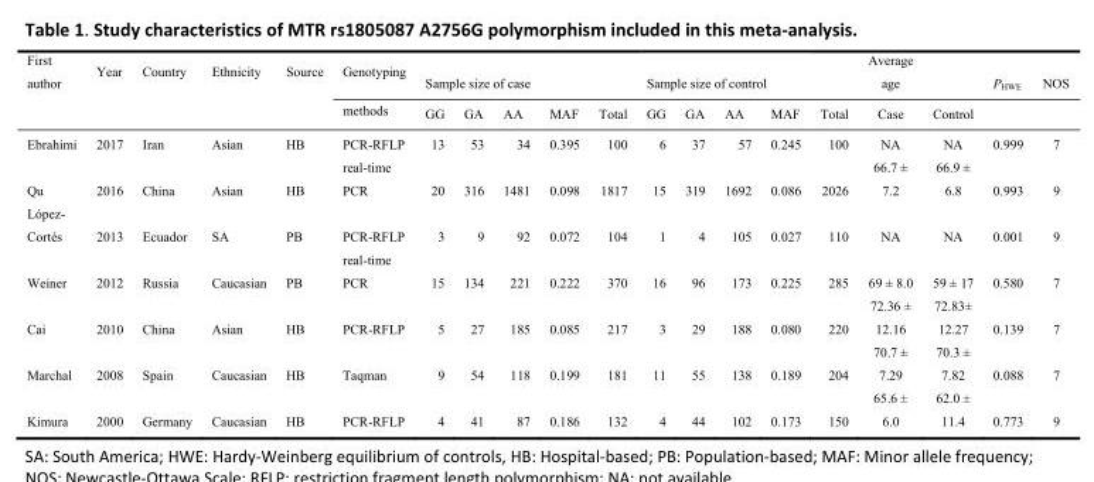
<table><tbody><tr><td rowspan="2">First author</td><td>Year</td><td>Country</td><td>Ethnicity</td><td>Source</td><td>Genotyping</td><td colspan="4">Sample size of case</td><td></td><td colspan="4">Sample size of control</td><td></td><td>Average age</td><td></td><td>P<sub>HWE</sub></td><td>NOS</td></tr><tr><td></td><td></td><td></td><td></td><td>methods</td><td>GG</td><td>GA</td><td>AA</td><td>MAF</td><td>Total</td><td>GG</td><td>GA</td><td>AA</td><td>MAF</td><td>Total</td><td>Case</td><td>Control</td><td></td><td></td></tr><tr><td>Ebrahimi</td><td>2017</td><td>Iran</td><td>Asian</td><td>HB</td><td>PCR-RFLP</td><td>13</td><td>53</td><td>34</td><td>0.395</td><td>100</td><td>6</td><td>37</td><td>57</td><td>0.245</td><td>100</td><td>NA</td><td>NA</td><td>0.999</td><td>7</td></tr><tr><td>Qu</td><td>2016</td><td>China</td><td>Asian</td><td>HB</td><td>real-time PCR</td><td>20</td><td>316</td><td>1481</td><td>0.098</td><td>1817</td><td>15</td><td>319</td><td>1692</td><td>0.086</td><td>2026</td><td>66.7 ± 7.2</td><td>66.9 ± 6.8</td><td>0.993</td><td>9</td></tr><tr><td>López- Cortés</td><td>2013</td><td>Ecuador</td><td>SA</td><td>PB</td><td>PCR-RFLP</td><td>3</td><td>9</td><td>92</td><td>0.072</td><td>104</td><td>1</td><td>4</td><td>105</td><td>0.027</td><td>110</td><td>NA</td><td>NA</td><td>0.001</td><td>9</td></tr><tr><td>Weiner</td><td>2012</td><td>Russia</td><td>Caucasian</td><td>PB</td><td>real-time PCR</td><td>15</td><td>134</td><td>221</td><td>0.222</td><td>370</td><td>16</td><td>96</td><td>173</td><td>0.225</td><td>285</td><td>69 ± 8.0</td><td>59 ± 17</td><td>0.580</td><td>7</td></tr><tr><td>Cai</td><td>2010</td><td>China</td><td>Asian</td><td>HB</td><td>PCR-RFLP</td><td>5</td><td>27</td><td>185</td><td>0.085</td><td>217</td><td>3</td><td>29</td><td>188</td><td>0.080</td><td>220</td><td>72.36 ± 12.16</td><td>72.83± 12.27</td><td>0.139</td><td>7</td></tr><tr><td>Marchal</td><td>2008</td><td>Spain</td><td>Caucasian</td><td>HB</td><td>Taqman</td><td>9</td><td>54</td><td>118</td><td>0.199</td><td>181</td><td>11</td><td>55</td><td>138</td><td>0.189</td><td>204</td><td>70.7 ± 7.29</td><td>70.3 ± 7.82</td><td>0.088</td><td>7</td></tr><tr><td>Kimura</td><td>2000</td><td>Germany</td><td>Caucasian</td><td>HB</td><td>PCR-RFLP</td><td>4</td><td>41</td><td>87</td><td>0.186</td><td>132</td><td>4</td><td>44</td><td>102</td><td>0.173</td><td>150</td><td>65.6 ± 6.0</td><td>62.0 ± 11.4</td><td>0.773</td><td>9</td></tr></tbody></table>